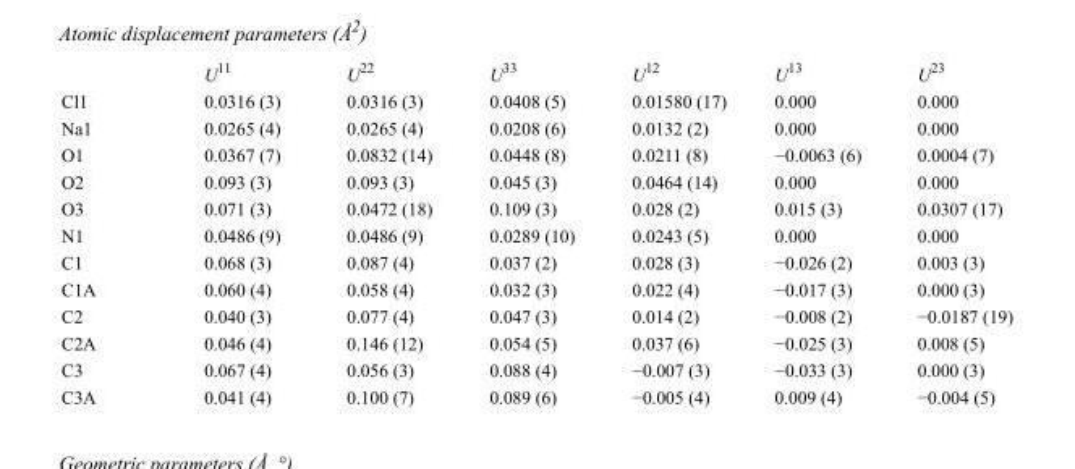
<table><thead><tr><td></td><td>U<sup>11</sup></td><td>U<sup>22</sup></td><td>U<sup>33</sup></td><td>U<sup>12</sup></td><td>U<sup>13</sup></td><td>U<sup>23</sup></td></tr></thead><tbody><tr><td>Cl1</td><td>0.0316 (3)</td><td>0.0316 (3)</td><td>0.0408 (5)</td><td>0.01580 (17)</td><td>0.000</td><td>0.000</td></tr><tr><td>Na1</td><td>0.0265 (4)</td><td>0.0265 (4)</td><td>0.0208 (6)</td><td>0.0132 (2)</td><td>0.000</td><td>0.000</td></tr><tr><td>O1</td><td>0.0367 (7)</td><td>0.0832 (14)</td><td>0.0448 (8)</td><td>0.0211 (8)</td><td>−0.0063 (6)</td><td>0.0004 (7)</td></tr><tr><td>O2</td><td>0.093 (3)</td><td>0.093 (3)</td><td>0.045 (3)</td><td>0.0464 (14)</td><td>0.000</td><td>0.000</td></tr><tr><td>O3</td><td>0.071 (3)</td><td>0.0472 (18)</td><td>0.109 (3)</td><td>0.028 (2)</td><td>0.015 (3)</td><td>0.0307 (17)</td></tr><tr><td>N1</td><td>0.0486 (9)</td><td>0.0486 (9)</td><td>0.0289 (10)</td><td>0.0243 (5)</td><td>0.000</td><td>0.000</td></tr><tr><td>C1</td><td>0.068 (3)</td><td>0.087 (4)</td><td>0.037 (2)</td><td>0.028 (3)</td><td>−0.026 (2)</td><td>0.003 (3)</td></tr><tr><td>C1A</td><td>0.060 (4)</td><td>0.058 (4)</td><td>0.032 (3)</td><td>0.022 (4)</td><td>−0.017 (3)</td><td>0.000 (3)</td></tr><tr><td>C2</td><td>0.040 (3)</td><td>0.077 (4)</td><td>0.047 (3)</td><td>0.014 (2)</td><td>−0.008 (2)</td><td>−0.0187 (19)</td></tr><tr><td>C2A</td><td>0.046 (4)</td><td>0.146 (12)</td><td>0.054 (5)</td><td>0.037 (6)</td><td>−0.025 (3)</td><td>0.008 (5)</td></tr><tr><td>C3</td><td>0.067 (4)</td><td>0.056 (3)</td><td>0.088 (4)</td><td>−0.007 (3)</td><td>−0.033 (3)</td><td>0.000 (3)</td></tr><tr><td>C3A</td><td>0.041 (4)</td><td>0.100 (7)</td><td>0.089 (6)</td><td>−0.005 (4)</td><td>0.009 (4)</td><td>−0.004 (5)</td></tr></tbody></table>